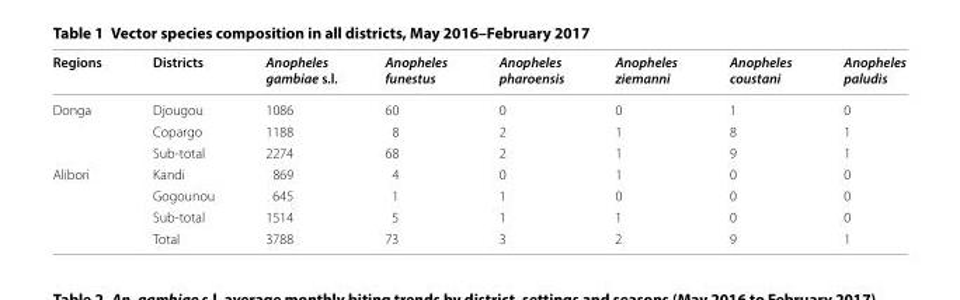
<table><thead><tr><td>Regions</td><td>Districts</td><td>Anopheles gambiae s.l.</td><td>Anopheles funestus</td><td>Anopheles pharoensis</td><td>Anopheles ziemanni</td><td>Anopheles coustani</td><td>Anopheles paludis</td></tr></thead><tbody><tr><td rowspan="3">Donga</td><td>Djougou</td><td>1086</td><td>60</td><td>0</td><td>0</td><td>1</td><td>0</td></tr><tr><td>Copargo</td><td>1188</td><td>8</td><td>2</td><td>1</td><td>8</td><td>1</td></tr><tr><td>Sub-total</td><td>2274</td><td>68</td><td>2</td><td>1</td><td>9</td><td>1</td></tr><tr><td rowspan="4">Alibori</td><td>Kandi</td><td>869</td><td>4</td><td>0</td><td>1</td><td>0</td><td>0</td></tr><tr><td>Gogounou</td><td>645</td><td>1</td><td>1</td><td>0</td><td>0</td><td>0</td></tr><tr><td>Sub-total</td><td>1514</td><td>5</td><td>1</td><td>1</td><td>0</td><td>0</td></tr><tr><td>Total</td><td>3788</td><td>73</td><td>3</td><td>2</td><td>9</td><td>1</td></tr></tbody></table>